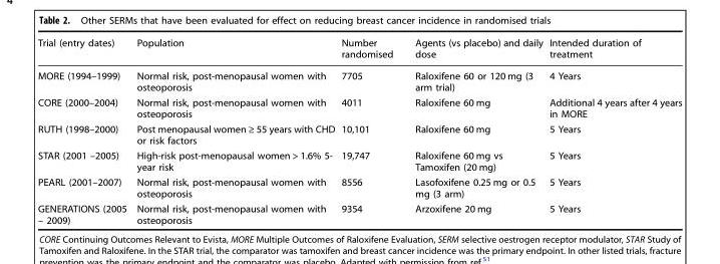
<table><thead><tr><td>Trial (entry dates)</td><td>Population</td><td>Number randomised</td><td>Agents (vs placebo) and daily dose</td><td>Intended duration of treatment</td></tr></thead><tbody><tr><td>MORE (1994–1999)</td><td>Normal risk, post-menopausal women with osteoporosis</td><td>7705</td><td>Raloxifene 60 or 120 mg (3 arm trial)</td><td>4 Years</td></tr><tr><td>CORE (2000–2004)</td><td>Normal risk, post-menopausal women with osteoporosis</td><td>4011</td><td>Raloxifene 60 mg</td><td>Additional 4 years after 4 years in MORE</td></tr><tr><td>RUTH (1998–2000)</td><td>Post menopausal women ≥ 55 years with CHD or risk factors</td><td>10,101</td><td>Raloxifene 60 mg</td><td>5 Years</td></tr><tr><td>STAR (2001 –2005)</td><td>High-risk post-menopausal women &gt; 1.6% 5- year risk</td><td>19,747</td><td>Raloxifene 60 mg vs Tamoxifen (20 mg)</td><td>5 Years</td></tr><tr><td>PEARL (2001–2007)</td><td>Normal risk, post-menopausal women with osteoporosis</td><td>8556</td><td>Lasofoxifene 0.25 mg or 0.5 mg (3 arm)</td><td>5 Years</td></tr><tr><td>GENERATIONS (2005 – 2009)</td><td>Normal risk, post-menopausal women with osteoporosis</td><td>9354</td><td>Arzoxifene 20 mg</td><td>5 Years</td></tr></tbody></table>